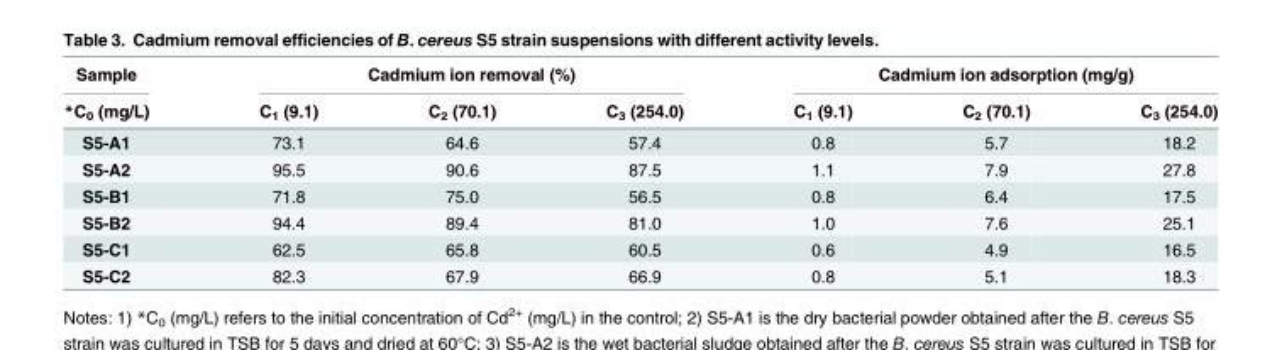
<table><thead><tr><td rowspan="2">Sample *C<sub>0</sub> (mg/L)</td><td colspan="3">Cadmium ion removal (%)</td><td colspan="3">Cadmium ion adsorption (mg/g)</td></tr><tr><td>C<sub>1</sub> (9.1)</td><td>C<sub>2</sub> (70.1)</td><td>C<sub>3</sub> (254.0)</td><td>C<sub>1</sub> (9.1)</td><td>C<sub>2</sub> (70.1)</td><td>C<sub>3</sub> (254.0)</td></tr></thead><tbody><tr><td>S5-A1</td><td>73.1</td><td>64.6</td><td>57.4</td><td>0.8</td><td>5.7</td><td>18.2</td></tr><tr><td>S5-A2</td><td>95.5</td><td>90.6</td><td>87.5</td><td>1.1</td><td>7.9</td><td>27.8</td></tr><tr><td>S5-B1</td><td>71.8</td><td>75.0</td><td>56.5</td><td>0.8</td><td>6.4</td><td>17.5</td></tr><tr><td>S5-B2</td><td>94.4</td><td>89.4</td><td>81.0</td><td>1.0</td><td>7.6</td><td>25.1</td></tr><tr><td>S5-C1</td><td>62.5</td><td>65.8</td><td>60.5</td><td>0.6</td><td>4.9</td><td>16.5</td></tr><tr><td>S5-C2</td><td>82.3</td><td>67.9</td><td>66.9</td><td>0.8</td><td>5.1</td><td>18.3</td></tr></tbody></table>